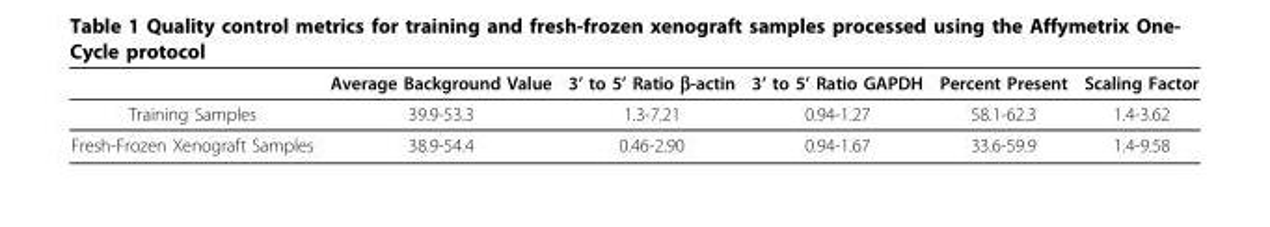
<table><thead><tr><td></td><td>Average Background Value</td><td>3’ to 5’ Ratio β-actin</td><td>3’ to 5’ Ratio GAPDH</td><td>Percent Present</td><td>Scaling Factor</td></tr></thead><tbody><tr><td>Training Samples</td><td>39.9-53.3</td><td>1.3-7.21</td><td>0.94-1.27</td><td>58.1-62.3</td><td>1.4-3.62</td></tr><tr><td>Fresh-Frozen Xenograft Samples</td><td>38.9-54.4</td><td>0.46-2.90</td><td>0.94-1.67</td><td>33.6-59.9</td><td>1.4-9.58</td></tr></tbody></table>